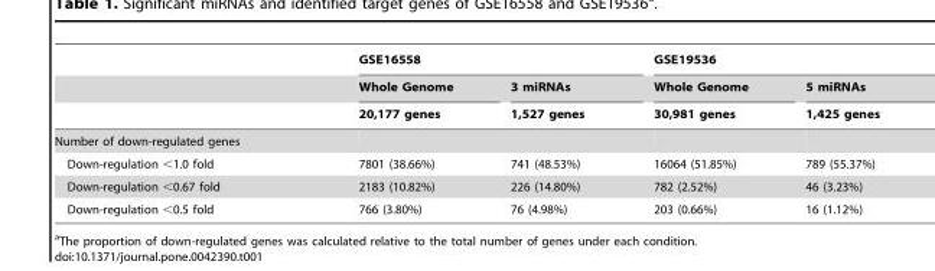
<table><thead><tr><td rowspan="3"></td><td colspan="2">GSE16558</td><td colspan="2">GSE19536</td></tr><tr><td rowspan="2">Whole Genome 20,177 genes</td><td rowspan="2">3 miRNAs 1,527 genes</td><td rowspan="2">Whole Genome 30,981 genes</td><td rowspan="2">5 miRNAs 1,425 genes</td></tr><tr></tr></thead><tbody><tr><td colspan="5">Number of down-regulated genes</td></tr><tr><td>Down-regulation &lt;1.0 fold</td><td>7801 (38.66%)</td><td>741 (48.53%)</td><td>16064 (51.85%)</td><td>789 (55.37%)</td></tr><tr><td>Down-regulation &lt;0.67 fold</td><td>2183 (10.82%)</td><td>226 (14.80%)</td><td>782 (2.52%)</td><td>46 (3.23%)</td></tr><tr><td>Down-regulation &lt;0.5 fold</td><td>766 (3.80%)</td><td>76 (4.98%)</td><td>203 (0.66%)</td><td>16 (1.12%)</td></tr></tbody></table>